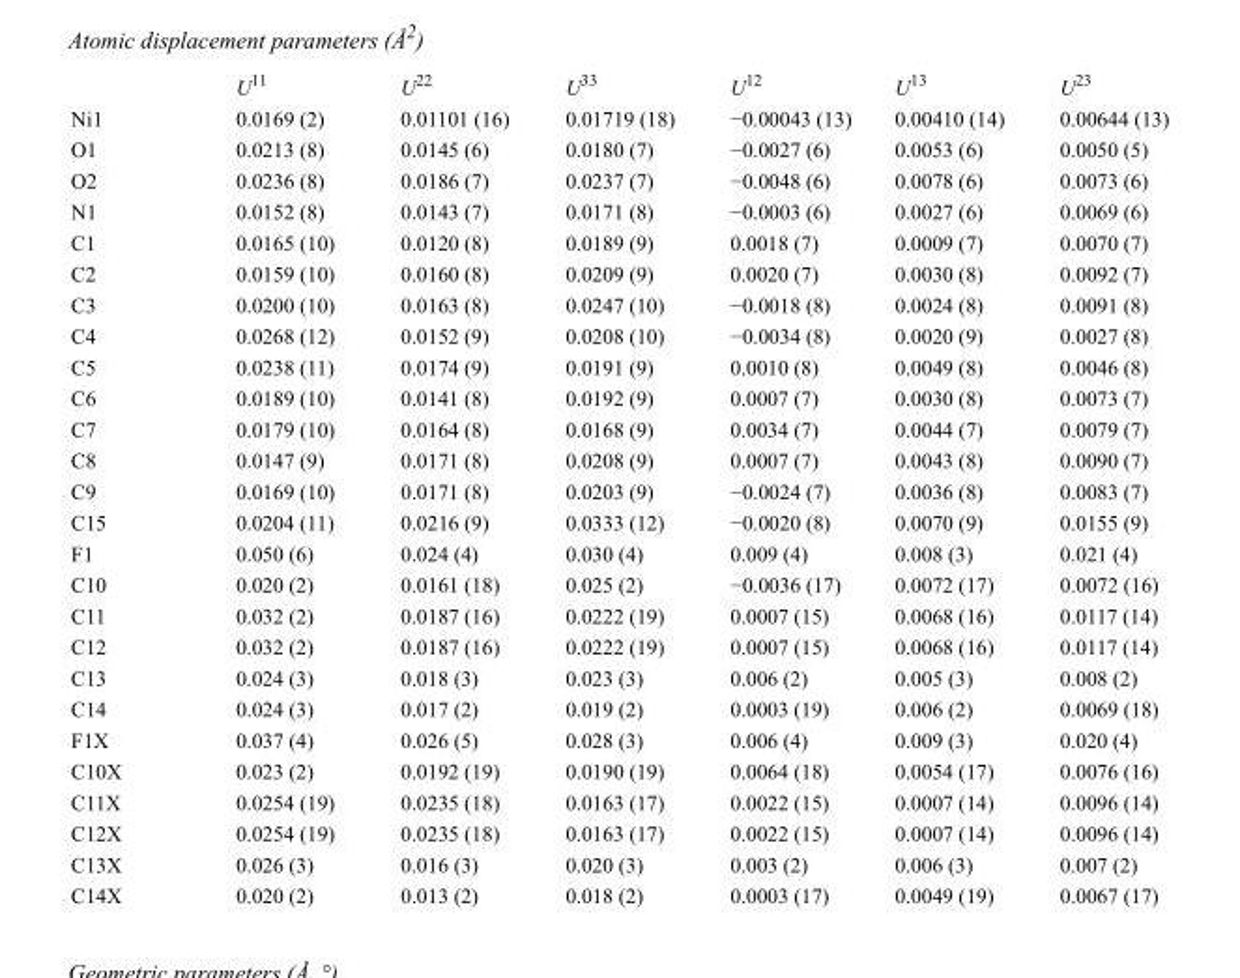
<table><thead><tr><td></td><td>U<sup>11</sup></td><td>U<sup>22</sup></td><td>U<sup>33</sup></td><td>U<sup>12</sup></td><td>U<sup>13</sup></td><td>U<sup>23</sup></td></tr></thead><tbody><tr><td>Ni1</td><td>0.0169 (2)</td><td>0.01101 (16)</td><td>0.01719 (18)</td><td>−0.00043 (13)</td><td>0.00410 (14)</td><td>0.00644 (13)</td></tr><tr><td>O1</td><td>0.0213 (8)</td><td>0.0145 (6)</td><td>0.0180 (7)</td><td>−0.0027 (6)</td><td>0.0053 (6)</td><td>0.0050 (5)</td></tr><tr><td>O2</td><td>0.0236 (8)</td><td>0.0186 (7)</td><td>0.0237 (7)</td><td>−0.0048 (6)</td><td>0.0078 (6)</td><td>0.0073 (6)</td></tr><tr><td>N1</td><td>0.0152 (8)</td><td>0.0143 (7)</td><td>0.0171 (8)</td><td>−0.0003 (6)</td><td>0.0027 (6)</td><td>0.0069 (6)</td></tr><tr><td>C1</td><td>0.0165 (10)</td><td>0.0120 (8)</td><td>0.0189 (9)</td><td>0.0018 (7)</td><td>0.0009 (7)</td><td>0.0070 (7)</td></tr><tr><td>C2</td><td>0.0159 (10)</td><td>0.0160 (8)</td><td>0.0209 (9)</td><td>0.0020 (7)</td><td>0.0030 (8)</td><td>0.0092 (7)</td></tr><tr><td>C3</td><td>0.0200 (10)</td><td>0.0163 (8)</td><td>0.0247 (10)</td><td>−0.0018 (8)</td><td>0.0024 (8)</td><td>0.0091 (8)</td></tr><tr><td>C4</td><td>0.0268 (12)</td><td>0.0152 (9)</td><td>0.0208 (10)</td><td>−0.0034 (8)</td><td>0.0020 (9)</td><td>0.0027 (8)</td></tr><tr><td>C5</td><td>0.0238 (11)</td><td>0.0174 (9)</td><td>0.0191 (9)</td><td>0.0010 (8)</td><td>0.0049 (8)</td><td>0.0046 (8)</td></tr><tr><td>C6</td><td>0.0189 (10)</td><td>0.0141 (8)</td><td>0.0192 (9)</td><td>0.0007 (7)</td><td>0.0030 (8)</td><td>0.0073 (7)</td></tr><tr><td>C7</td><td>0.0179 (10)</td><td>0.0164 (8)</td><td>0.0168 (9)</td><td>0.0034 (7)</td><td>0.0044 (7)</td><td>0.0079 (7)</td></tr><tr><td>C8</td><td>0.0147 (9)</td><td>0.0171 (8)</td><td>0.0208 (9)</td><td>0.0007 (7)</td><td>0.0043 (8)</td><td>0.0090 (7)</td></tr><tr><td>C9</td><td>0.0169 (10)</td><td>0.0171 (8)</td><td>0.0203 (9)</td><td>−0.0024 (7)</td><td>0.0036 (8)</td><td>0.0083 (7)</td></tr><tr><td>C15</td><td>0.0204 (11)</td><td>0.0216 (9)</td><td>0.0333 (12)</td><td>−0.0020 (8)</td><td>0.0070 (9)</td><td>0.0155 (9)</td></tr><tr><td>F1</td><td>0.050 (6)</td><td>0.024 (4)</td><td>0.030 (4)</td><td>0.009 (4)</td><td>0.008 (3)</td><td>0.021 (4)</td></tr><tr><td>C10</td><td>0.020 (2)</td><td>0.0161 (18)</td><td>0.025 (2)</td><td>−0.0036 (17)</td><td>0.0072 (17)</td><td>0.0072 (16)</td></tr><tr><td>C11</td><td>0.032 (2)</td><td>0.0187 (16)</td><td>0.0222 (19)</td><td>0.0007 (15)</td><td>0.0068 (16)</td><td>0.0117 (14)</td></tr><tr><td>C12</td><td>0.032 (2)</td><td>0.0187 (16)</td><td>0.0222 (19)</td><td>0.0007 (15)</td><td>0.0068 (16)</td><td>0.0117 (14)</td></tr><tr><td>C13</td><td>0.024 (3)</td><td>0.018 (3)</td><td>0.023 (3)</td><td>0.006 (2)</td><td>0.005 (3)</td><td>0.008 (2)</td></tr><tr><td>C14</td><td>0.024 (3)</td><td>0.017 (2)</td><td>0.019 (2)</td><td>0.0003 (19)</td><td>0.006 (2)</td><td>0.0069 (18)</td></tr><tr><td>F1X</td><td>0.037 (4)</td><td>0.026 (5)</td><td>0.028 (3)</td><td>0.006 (4)</td><td>0.009 (3)</td><td>0.020 (4)</td></tr><tr><td>C10X</td><td>0.023 (2)</td><td>0.0192 (19)</td><td>0.0190 (19)</td><td>0.0064 (18)</td><td>0.0054 (17)</td><td>0.0076 (16)</td></tr><tr><td>C11X</td><td>0.0254 (19)</td><td>0.0235 (18)</td><td>0.0163 (17)</td><td>0.0022 (15)</td><td>0.0007 (14)</td><td>0.0096 (14)</td></tr><tr><td>C12X</td><td>0.0254 (19)</td><td>0.0235 (18)</td><td>0.0163 (17)</td><td>0.0022 (15)</td><td>0.0007 (14)</td><td>0.0096 (14)</td></tr><tr><td>C13X</td><td>0.026 (3)</td><td>0.016 (3)</td><td>0.020 (3)</td><td>0.003 (2)</td><td>0.006 (3)</td><td>0.007 (2)</td></tr><tr><td>C14X</td><td>0.020 (2)</td><td>0.013 (2)</td><td>0.018 (2)</td><td>0.0003 (17)</td><td>0.0049 (19)</td><td>0.0067 (17)</td></tr></tbody></table>